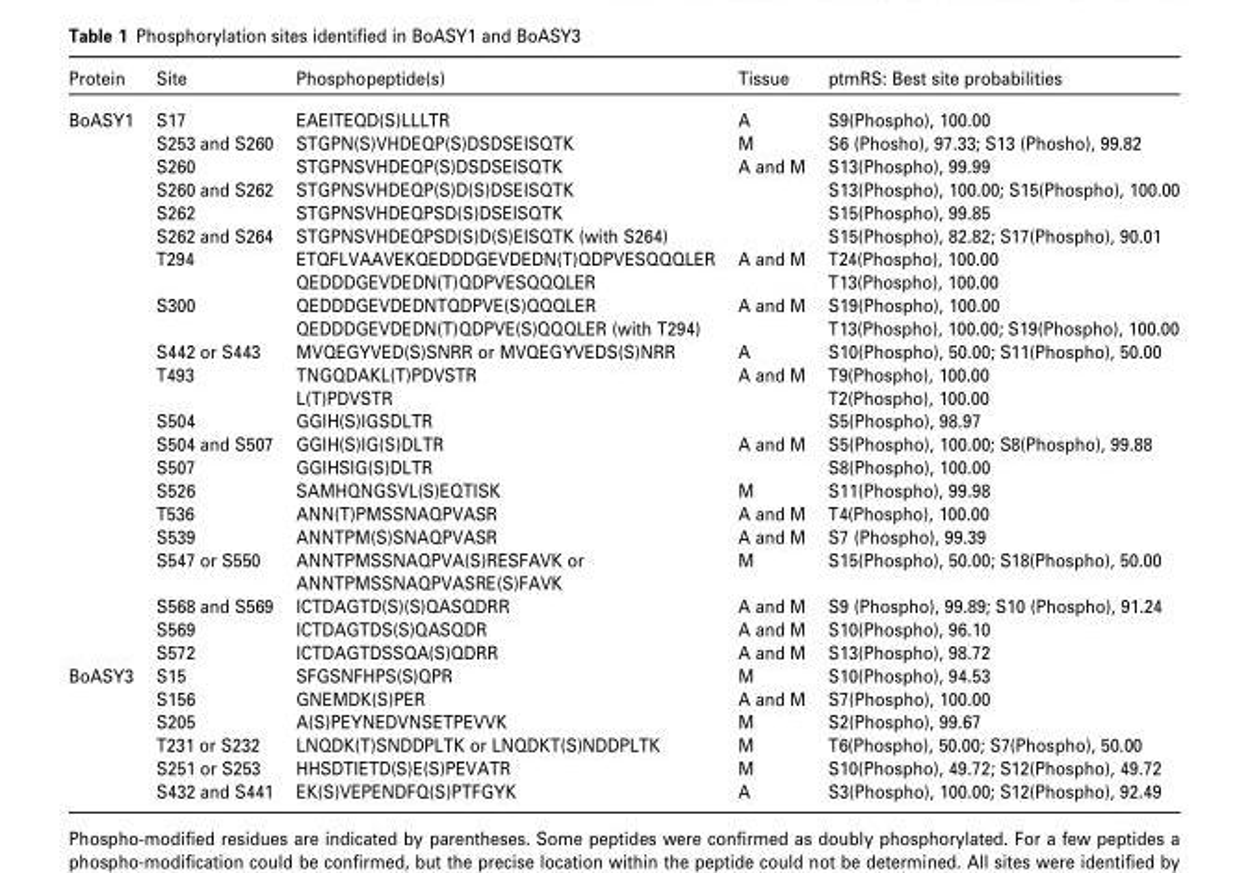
<table><thead><tr><td>Protein</td><td>Site</td><td>Phosphopeptide(s)</td><td>Tissue</td><td>ptmRS: Best site probabilities</td></tr></thead><tbody><tr><td rowspan="24">BoASY1</td><td>S17</td><td>EAEITEQD(S)LLLTR</td><td>A</td><td>S9(Phospho), 100.00</td></tr><tr><td>S253 and S260</td><td>STGPN(S)VHDEQP(S)DSDSEISQTK</td><td>M</td><td>S6 (Phosho), 97.33; S13 (Phosho), 99.82</td></tr><tr><td>S260</td><td>STGPNSVHDEQP(S)DSDSEISQTK</td><td rowspan="4">A and M</td><td>S13(Phospho), 99.99</td></tr><tr><td>S260 and S262</td><td>STGPNSVHDEQP(S)D(S)DSEISQTK</td><td>S13(Phospho), 100.00; S15(Phospho), 100.00</td></tr><tr><td>S262</td><td>STGPNSVHDEQPSD(S)DSEISQTK</td><td>S15(Phospho), 99.85</td></tr><tr><td>S262 and S264</td><td>STGPNSVHDEQPSD(S)D(S)EISQTK (with S264)</td><td>S15(Phospho), 82.82; S17(Phospho), 90.01</td></tr><tr><td rowspan="2">T294</td><td>ETQFLVAAVEKQEDDDGEVDEDN(T)QDPVESQQQLER</td><td rowspan="2">A and M</td><td>T24(Phospho), 100.00</td></tr><tr><td>QEDDDGEVDEDN(T)QDPVESQQQLER</td><td>T13(Phospho), 100.00</td></tr><tr><td rowspan="2">S300</td><td>QEDDDGEVDEDNTQDPVE(S)QQQLER</td><td rowspan="2">A and M</td><td>S19(Phospho), 100.00</td></tr><tr><td>QEDDDGEVDEDN(T)QDPVE(S)QQQLER (with T294)</td><td>T13(Phospho), 100.00; S19(Phospho), 100.00</td></tr><tr><td>S442 or S443</td><td>MVQEGYVED(S)SNRR or MVQEGYVEDS(S)NRR</td><td>A</td><td>S10(Phospho), 50.00; S11(Phospho), 50.00</td></tr><tr><td rowspan="2">T493</td><td>TNGQDAKL(T)PDVSTR</td><td rowspan="2">A and M</td><td>T9(Phospho), 100.00</td></tr><tr><td>L(T)PDVSTR</td><td>T2(Phospho), 100.00</td></tr><tr><td>S504</td><td>GGIH(S)IGSDLTR</td><td></td><td>S5(Phospho), 98.97</td></tr><tr><td>S504 and S507</td><td>GGIH(S)IG(S)DLTR</td><td>A and M</td><td>S5(Phospho), 100.00; S8(Phospho), 99.88</td></tr><tr><td>S507</td><td>GGIHSIG(S)DLTR</td><td></td><td>S8(Phospho), 100.00</td></tr><tr><td>S526</td><td>SAMHQNGSVL(S)EQTISK</td><td>M</td><td>S11(Phospho), 99.98</td></tr><tr><td>T536</td><td>ANN(T)PMSSNAQPVASR</td><td>A and M</td><td>T4(Phospho), 100.00</td></tr><tr><td>S539</td><td>ANNTPM(S)SNAQPVASR</td><td>A and M</td><td>S7 (Phospho), 99.39</td></tr><tr><td rowspan="2">S547 or S550</td><td>ANNTPMSSNAQPVA(S)RESFAVK or</td><td rowspan="2">M</td><td rowspan="2">S15(Phospho), 50.00; S18(Phospho), 50.00</td></tr><tr><td>ANNTPMSSNAQPVASRE(S)FAVK</td></tr><tr><td>S568 and S569</td><td>ICTDAGTD(S)(S)QASQDRR</td><td>A and M</td><td>S9 (Phospho), 99.89; S10 (Phospho), 91.24</td></tr><tr><td>S569</td><td>ICTDAGTDS(S)QASQDR</td><td>A and M</td><td>S10(Phospho), 96.10</td></tr><tr><td>S572</td><td>ICTDAGTDSSQA(S)QDRR</td><td>A and M</td><td>S13(Phospho), 98.72</td></tr><tr><td rowspan="6">BoASY3</td><td>S15</td><td>SFGSNFHPS(S)QPR</td><td>M</td><td>S10(Phospho), 94.53</td></tr><tr><td>S156</td><td>GNEMDK(S)PER</td><td>A and M</td><td>S7(Phospho), 100.00</td></tr><tr><td>S205</td><td>A(S)PEYNEDVNSETPEVVK</td><td>M</td><td>S2(Phospho), 99.67</td></tr><tr><td>T231 or S232</td><td>LNQDK(T)SNDDPLTK or LNQDKT(S)NDDPLTK</td><td>M</td><td>T6(Phospho), 50.00; S7(Phospho), 50.00</td></tr><tr><td>S251 or S253</td><td>HHSDTIETD(S)E(S)PEVATR</td><td>M</td><td>S10(Phospho), 49.72; S12(Phospho), 49.72</td></tr><tr><td>S432 and S441</td><td>EK(S)VEPENDFQ(S)PTFGYK</td><td>A</td><td>S3(Phospho), 100.00; S12(Phospho), 92.49</td></tr></tbody></table>